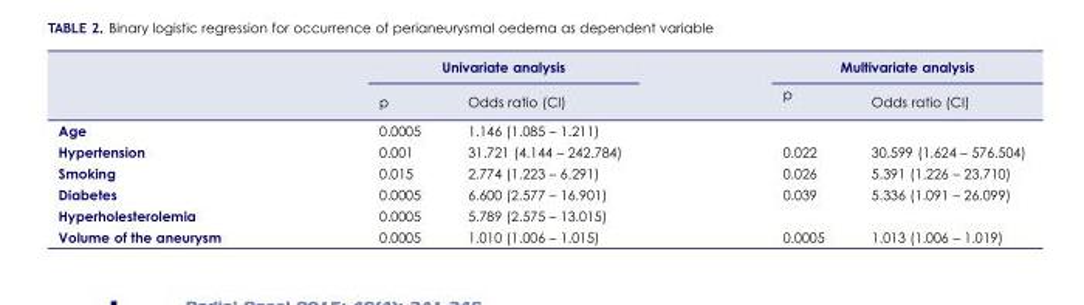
<table><thead><tr><td rowspan="2"></td><td colspan="2">Univariate analysis</td><td colspan="2">Multivariate analysis</td></tr><tr><td>p</td><td>Odds ratio (CI)</td><td>p</td><td>Odds ratio (CI)</td></tr></thead><tbody><tr><td>Age</td><td>0.0005</td><td>1.146 (1.085 – 1.211)</td><td></td><td></td></tr><tr><td>Hypertension</td><td>0.001</td><td>31.721 (4.144 – 242.784)</td><td>0.022</td><td>30.599 (1.624 – 576.504)</td></tr><tr><td>Smoking</td><td>0.015</td><td>2.774 (1.223 – 6.291)</td><td>0.026</td><td>5.391 (1.226 – 23.710)</td></tr><tr><td>Diabetes</td><td>0.0005</td><td>6.600 (2.577 – 16.901)</td><td>0.039</td><td>5.336 (1.091 – 26.099)</td></tr><tr><td>Hyperholesterolemia</td><td>0.0005</td><td>5.789 (2.575 – 13.015)</td><td></td><td></td></tr><tr><td>Volume of the aneurysm</td><td>0.0005</td><td>1.010 (1.006 – 1.015)</td><td>0.0005</td><td>1.013 (1.006 – 1.019)</td></tr></tbody></table>